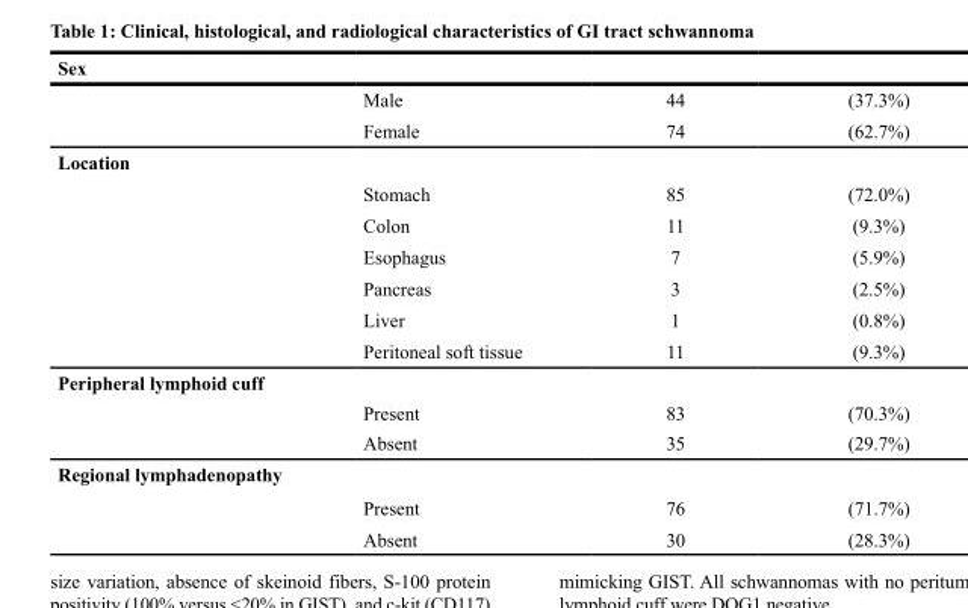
<table><thead><tr><td>Sex</td><td></td><td></td><td></td></tr></thead><tbody><tr><td></td><td>Male</td><td>44</td><td>(37.3%)</td></tr><tr><td></td><td>Female</td><td>74</td><td>(62.7%)</td></tr><tr><td colspan="4">Location</td></tr><tr><td></td><td>Stomach</td><td>85</td><td>(72.0%)</td></tr><tr><td></td><td>Colon</td><td>11</td><td>(9.3%)</td></tr><tr><td></td><td>Esophagus</td><td>7</td><td>(5.9%)</td></tr><tr><td></td><td>Pancreas</td><td>3</td><td>(2.5%)</td></tr><tr><td></td><td>Liver</td><td>1</td><td>(0.8%)</td></tr><tr><td></td><td>Peritoneal soft tissue</td><td>11</td><td>(9.3%)</td></tr><tr><td colspan="4">Peripheral lymphoid cuff</td></tr><tr><td></td><td>Present</td><td>83</td><td>(70.3%)</td></tr><tr><td></td><td>Absent</td><td>35</td><td>(29.7%)</td></tr><tr><td colspan="4">Regional lymphadenopathy</td></tr><tr><td></td><td>Present</td><td>76</td><td>(71.7%)</td></tr><tr><td></td><td>Absent</td><td>30</td><td>(28.3%)</td></tr></tbody></table>